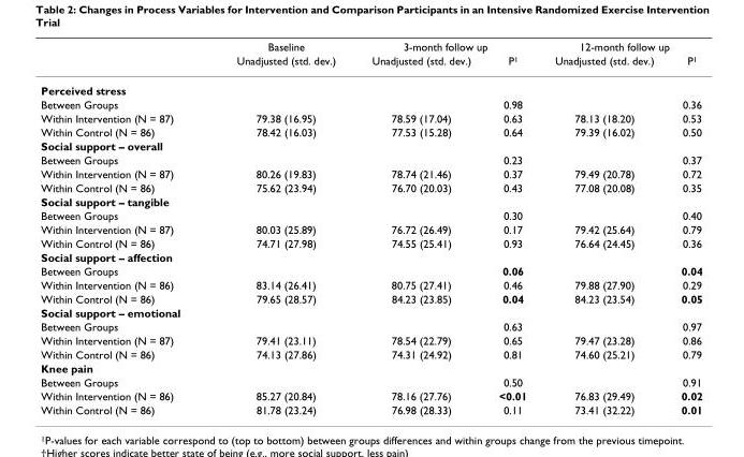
<table><thead><tr><td rowspan="2"></td><td rowspan="2">Baseline Unadjusted (std. dev.)</td><td colspan="2">3-month follow up</td><td colspan="2">12-month follow up</td></tr><tr><td>Unadjusted (std. dev.)</td><td>P<sup>1</sup></td><td>Unadjusted (std. dev.)</td><td>P<sup>1</sup></td></tr></thead><tbody><tr><td colspan="6">Perceived stress</td></tr><tr><td>Between Groups</td><td></td><td></td><td>0.98</td><td></td><td>0.36</td></tr><tr><td>Within Intervention (N = 87)</td><td>79.38 (16.95)</td><td>78.59 (17.04)</td><td>0.63</td><td>78.13 (18.20)</td><td>0.53</td></tr><tr><td>Within Control (N = 86)</td><td>78.42 (16.03)</td><td>77.53 (15.28)</td><td>0.64</td><td>79.39 (16.02)</td><td>0.50</td></tr><tr><td colspan="6">Social support – overall</td></tr><tr><td>Between Groups</td><td></td><td></td><td>0.23</td><td></td><td>0.37</td></tr><tr><td>Within Intervention (N = 87)</td><td>80.26 (19.83)</td><td>78.74 (21.46)</td><td>0.37</td><td>79.49 (20.78)</td><td>0.72</td></tr><tr><td>Within Control (N = 86)</td><td>75.62 (23.94)</td><td>76.70 (20.03)</td><td>0.43</td><td>77.08 (20.08)</td><td>0.35</td></tr><tr><td colspan="6">Social support – tangible</td></tr><tr><td>Between Groups</td><td></td><td></td><td>0.30</td><td></td><td>0.40</td></tr><tr><td>Within Intervention (N = 87)</td><td>80.03 (25.89)</td><td>76.72 (26.49)</td><td>0.17</td><td>79.42 (25.64)</td><td>0.79</td></tr><tr><td>Within Control (N = 86)</td><td>74.71 (27.98)</td><td>74.55 (25.41)</td><td>0.93</td><td>76.64 (24.45)</td><td>0.36</td></tr><tr><td colspan="6">Social support – affection</td></tr><tr><td>Between Groups</td><td></td><td></td><td>0.06</td><td></td><td>0.04</td></tr><tr><td>Within Intervention (N = 86)</td><td>83.14 (26.41)</td><td>80.75 (27.41)</td><td>0.46</td><td>79.88 (27.90)</td><td>0.29</td></tr><tr><td>Within Control (N = 86)</td><td>79.65 (28.57)</td><td>84.23 (23.85)</td><td>0.04</td><td>84.23 (23.54)</td><td>0.05</td></tr><tr><td colspan="6">Social support – emotional</td></tr><tr><td>Between Groups</td><td></td><td></td><td>0.63</td><td></td><td>0.97</td></tr><tr><td>Within Intervention (N = 87)</td><td>79.41 (23.11)</td><td>78.54 (22.79)</td><td>0.65</td><td>79.47 (23.28)</td><td>0.86</td></tr><tr><td>Within Control (N = 86)</td><td>74.13 (27.86)</td><td>74.31 (24.92)</td><td>0.81</td><td>74.60 (25.21)</td><td>0.79</td></tr><tr><td colspan="6">Knee pain</td></tr><tr><td>Between Groups</td><td></td><td></td><td>0.50</td><td></td><td>0.91</td></tr><tr><td>Within Intervention (N = 86)</td><td>85.27 (20.84)</td><td>78.16 (27.76)</td><td>&lt;0.01</td><td>76.83 (29.49)</td><td>0.02</td></tr><tr><td>Within Control (N = 86)</td><td>81.78 (23.24)</td><td>76.98 (28.33)</td><td>0.11</td><td>73.41 (32.22)</td><td>0.01</td></tr></tbody></table>